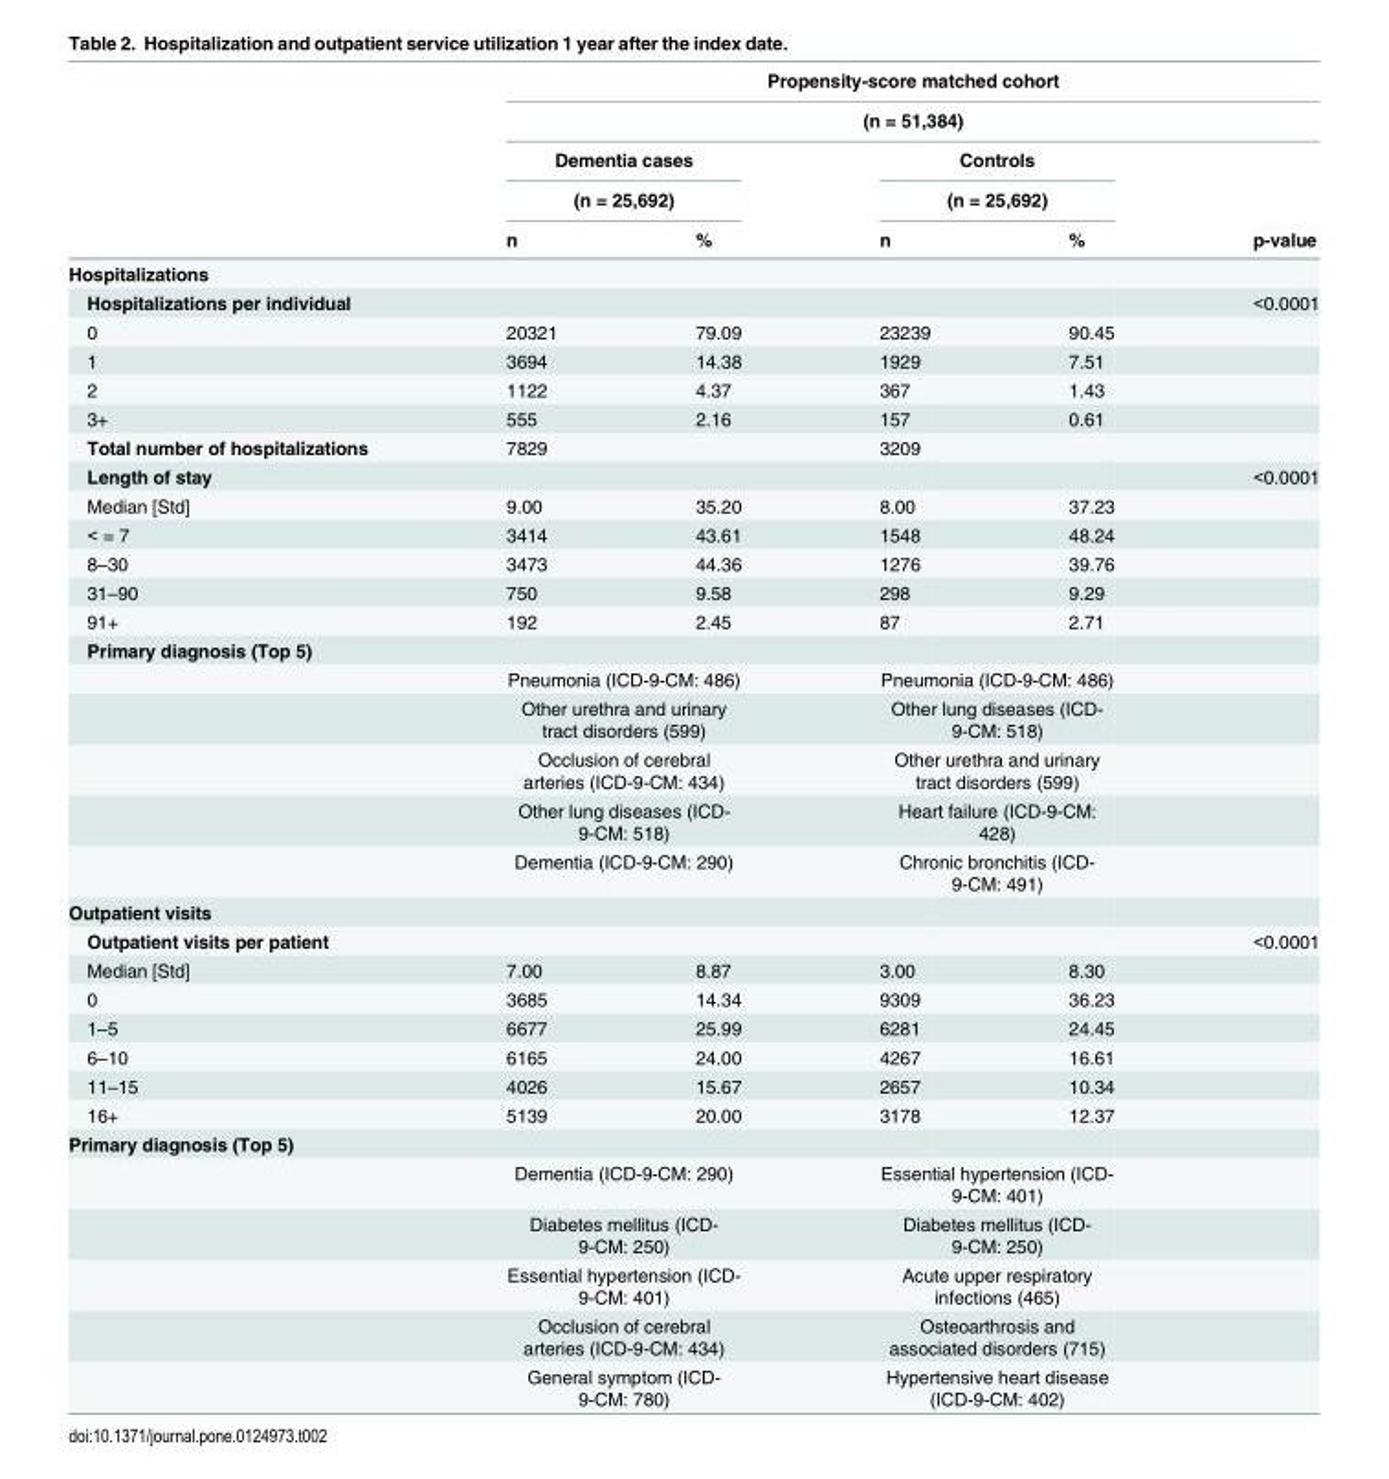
<table><thead><tr><td rowspan="5"></td><td rowspan="2" colspan="5">Propensity-score matched cohort (n = 51,384)</td></tr><tr></tr><tr><td rowspan="2" colspan="2">Dementia cases (n = 25,692)</td><td rowspan="2" colspan="2">Controls (n = 25,692)</td><td rowspan="3">p-value</td></tr><tr></tr><tr><td>n</td><td>%</td><td>n</td><td>%</td></tr></thead><tbody><tr><td colspan="6">Hospitalizations</td></tr><tr><td>Hospitalizations per individual</td><td colspan="2"></td><td colspan="2"></td><td>&lt;0.0001</td></tr><tr><td>0</td><td>20321</td><td>79.09</td><td>23239</td><td>90.45</td><td></td></tr><tr><td>1</td><td>3694</td><td>14.38</td><td>1929</td><td>7.51</td><td></td></tr><tr><td>2</td><td>1122</td><td>4.37</td><td>367</td><td>1.43</td><td></td></tr><tr><td>3+</td><td>555</td><td>2.16</td><td>157</td><td>0.61</td><td></td></tr><tr><td>Total number of hospitalizations</td><td>7829</td><td></td><td>3209</td><td></td><td></td></tr><tr><td>Length of stay</td><td></td><td></td><td></td><td></td><td>&lt;0.0001</td></tr><tr><td>Median [Std]</td><td>9.00</td><td>35.20</td><td>8.00</td><td>37.23</td><td></td></tr><tr><td>&lt; = 7</td><td>3414</td><td>43.61</td><td>1548</td><td>48.24</td><td></td></tr><tr><td>8–30</td><td>3473</td><td>44.36</td><td>1276</td><td>39.76</td><td></td></tr><tr><td>31–90</td><td>750</td><td>9.58</td><td>298</td><td>9.29</td><td></td></tr><tr><td>91+</td><td>192</td><td>2.45</td><td>87</td><td>2.71</td><td></td></tr><tr><td colspan="6">Primary diagnosis (Top 5)</td></tr><tr><td></td><td colspan="2">Pneumonia (ICD-9-CM: 486)</td><td colspan="2">Pneumonia (ICD-9-CM: 486)</td><td></td></tr><tr><td></td><td colspan="2">Other urethra and urinary tract disorders (599)</td><td colspan="2">Other lung diseases (ICD- 9-CM: 518)</td><td></td></tr><tr><td></td><td colspan="2">Occlusion of cerebral arteries (ICD-9-CM: 434)</td><td colspan="2">Other urethra and urinary tract disorders (599)</td><td></td></tr><tr><td></td><td colspan="2">Other lung diseases (ICD- 9-CM: 518)</td><td colspan="2">Heart failure (ICD-9-CM: 428)</td><td></td></tr><tr><td></td><td colspan="2">Dementia (ICD-9-CM: 290)</td><td colspan="2">Chronic bronchitis (ICD- 9-CM: 491)</td><td></td></tr><tr><td colspan="6">Outpatient visits</td></tr><tr><td>Outpatient visits per patient</td><td colspan="2"></td><td colspan="2"></td><td>&lt;0.0001</td></tr><tr><td>Median [Std]</td><td>7.00</td><td>8.87</td><td>3.00</td><td>8.30</td><td></td></tr><tr><td>0</td><td>3685</td><td>14.34</td><td>9309</td><td>36.23</td><td></td></tr><tr><td>1–5</td><td>6677</td><td>25.99</td><td>6281</td><td>24.45</td><td></td></tr><tr><td>6–10</td><td>6165</td><td>24.00</td><td>4267</td><td>16.61</td><td></td></tr><tr><td>11–15</td><td>4026</td><td>15.67</td><td>2657</td><td>10.34</td><td></td></tr><tr><td>16+</td><td>5139</td><td>20.00</td><td>3178</td><td>12.37</td><td></td></tr><tr><td colspan="6">Primary diagnosis (Top 5)</td></tr><tr><td></td><td colspan="2">Dementia (ICD-9-CM: 290)</td><td colspan="2">Essential hypertension (ICD- 9-CM: 401)</td><td></td></tr><tr><td></td><td colspan="2">Diabetes mellitus (ICD- 9-CM: 250)</td><td colspan="2">Diabetes mellitus (ICD- 9-CM: 250)</td><td></td></tr><tr><td></td><td colspan="2">Essential hypertension (ICD- 9-CM: 401)</td><td colspan="2">Acute upper respiratory infections (465)</td><td></td></tr><tr><td></td><td colspan="2">Occlusion of cerebral arteries (ICD-9-CM: 434)</td><td colspan="2">Osteoarthrosis and associated disorders (715)</td><td></td></tr><tr><td></td><td colspan="2">General symptom (ICD- 9-CM: 780)</td><td colspan="2">Hypertensive heart disease (ICD-9-CM: 402)</td><td></td></tr></tbody></table>